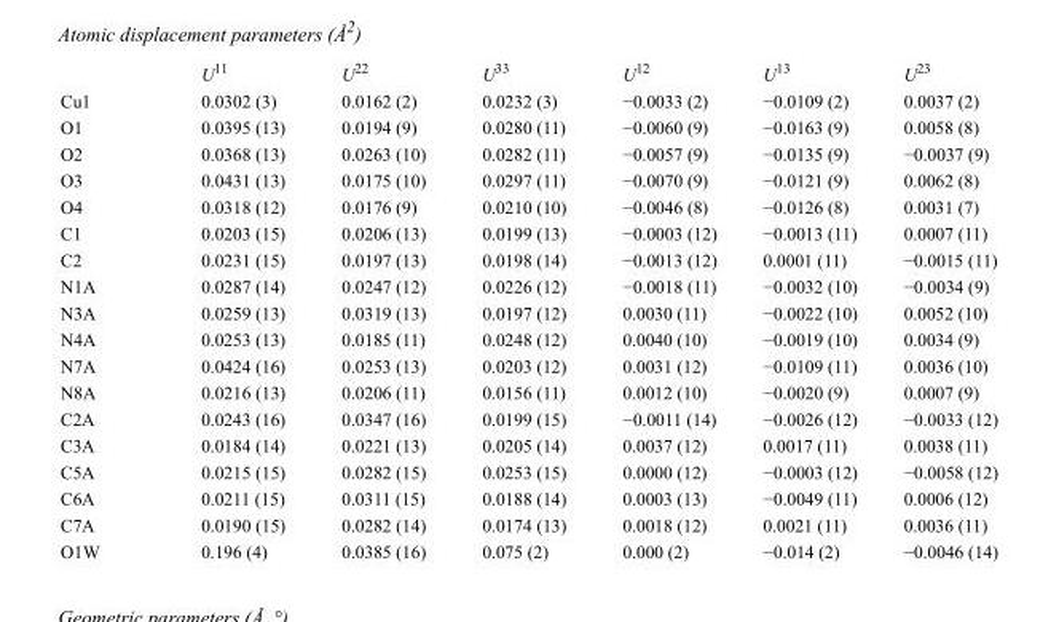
<table><thead><tr><td></td><td>U<sup>11</sup></td><td>U<sup>22</sup></td><td>U<sup>33</sup></td><td>U<sup>12</sup></td><td>U<sup>13</sup></td><td>U<sup>23</sup></td></tr></thead><tbody><tr><td>Cu1</td><td>0.0302 (3)</td><td>0.0162 (2)</td><td>0.0232 (3)</td><td>−0.0033 (2)</td><td>−0.0109 (2)</td><td>0.0037 (2)</td></tr><tr><td>O1</td><td>0.0395 (13)</td><td>0.0194 (9)</td><td>0.0280 (11)</td><td>−0.0060 (9)</td><td>−0.0163 (9)</td><td>0.0058 (8)</td></tr><tr><td>O2</td><td>0.0368 (13)</td><td>0.0263 (10)</td><td>0.0282 (11)</td><td>−0.0057 (9)</td><td>−0.0135 (9)</td><td>−0.0037 (9)</td></tr><tr><td>O3</td><td>0.0431 (13)</td><td>0.0175 (10)</td><td>0.0297 (11)</td><td>−0.0070 (9)</td><td>−0.0121 (9)</td><td>0.0062 (8)</td></tr><tr><td>O4</td><td>0.0318 (12)</td><td>0.0176 (9)</td><td>0.0210 (10)</td><td>−0.0046 (8)</td><td>−0.0126 (8)</td><td>0.0031 (7)</td></tr><tr><td>C1</td><td>0.0203 (15)</td><td>0.0206 (13)</td><td>0.0199 (13)</td><td>−0.0003 (12)</td><td>−0.0013 (11)</td><td>0.0007 (11)</td></tr><tr><td>C2</td><td>0.0231 (15)</td><td>0.0197 (13)</td><td>0.0198 (14)</td><td>−0.0013 (12)</td><td>0.0001 (11)</td><td>−0.0015 (11)</td></tr><tr><td>N1A</td><td>0.0287 (14)</td><td>0.0247 (12)</td><td>0.0226 (12)</td><td>−0.0018 (11)</td><td>−0.0032 (10)</td><td>−0.0034 (9)</td></tr><tr><td>N3A</td><td>0.0259 (13)</td><td>0.0319 (13)</td><td>0.0197 (12)</td><td>0.0030 (11)</td><td>−0.0022 (10)</td><td>0.0052 (10)</td></tr><tr><td>N4A</td><td>0.0253 (13)</td><td>0.0185 (11)</td><td>0.0248 (12)</td><td>0.0040 (10)</td><td>−0.0019 (10)</td><td>0.0034 (9)</td></tr><tr><td>N7A</td><td>0.0424 (16)</td><td>0.0253 (13)</td><td>0.0203 (12)</td><td>0.0031 (12)</td><td>−0.0109 (11)</td><td>0.0036 (10)</td></tr><tr><td>N8A</td><td>0.0216 (13)</td><td>0.0206 (11)</td><td>0.0156 (11)</td><td>0.0012 (10)</td><td>−0.0020 (9)</td><td>0.0007 (9)</td></tr><tr><td>C2A</td><td>0.0243 (16)</td><td>0.0347 (16)</td><td>0.0199 (15)</td><td>−0.0011 (14)</td><td>−0.0026 (12)</td><td>−0.0033 (12)</td></tr><tr><td>C3A</td><td>0.0184 (14)</td><td>0.0221 (13)</td><td>0.0205 (14)</td><td>0.0037 (12)</td><td>0.0017 (11)</td><td>0.0038 (11)</td></tr><tr><td>C5A</td><td>0.0215 (15)</td><td>0.0282 (15)</td><td>0.0253 (15)</td><td>0.0000 (12)</td><td>−0.0003 (12)</td><td>−0.0058 (12)</td></tr><tr><td>C6A</td><td>0.0211 (15)</td><td>0.0311 (15)</td><td>0.0188 (14)</td><td>0.0003 (13)</td><td>−0.0049 (11)</td><td>0.0006 (12)</td></tr><tr><td>C7A</td><td>0.0190 (15)</td><td>0.0282 (14)</td><td>0.0174 (13)</td><td>0.0018 (12)</td><td>0.0021 (11)</td><td>0.0036 (11)</td></tr><tr><td>O1W</td><td>0.196 (4)</td><td>0.0385 (16)</td><td>0.075 (2)</td><td>0.000 (2)</td><td>−0.014 (2)</td><td>−0.0046 (14)</td></tr></tbody></table>